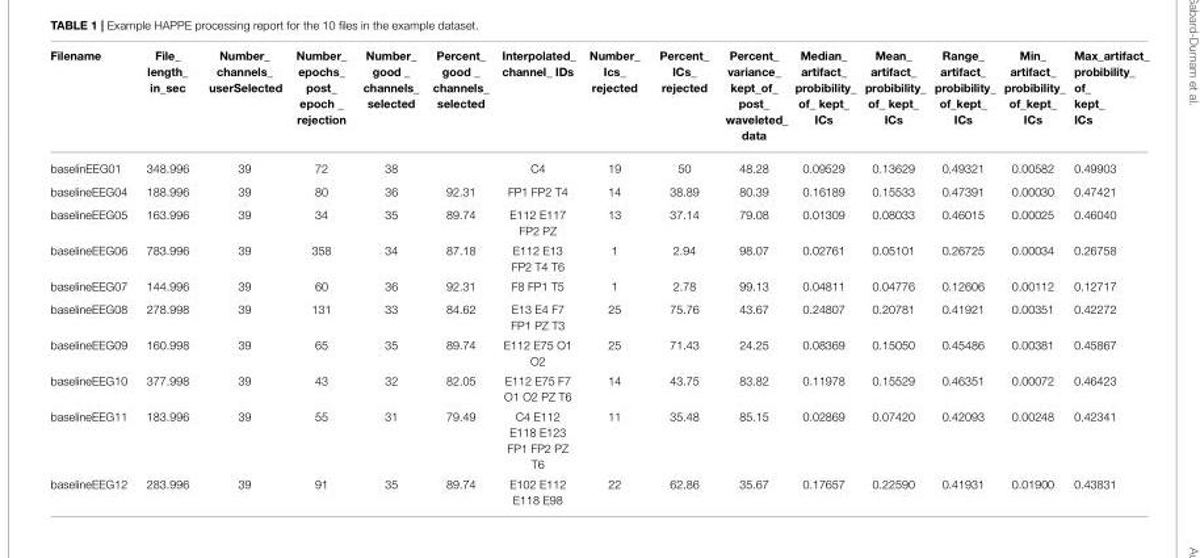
<table><thead><tr><td>Filename</td><td>File_ length_ in_sec</td><td>Number_ channels_ userSelected</td><td>Number_ epochs_ post_ epoch _ rejection</td><td>Number_ good _ channels_ selected</td><td>Percent_ good _ channels_ selected</td><td>Interpolated_ channel_ IDs</td><td>Number_ Ics_ rejected</td><td>Percent_ ICs_ rejected</td><td>Percent_ variance_ kept_of_ post_ waveleted_ data</td><td>Median_ artifact_ probibility_ of_ kept_ ICs</td><td>Mean_ artifact_ probibility_ of_ kept_ ICs</td><td>Range_ artifact_ probibility_ of_kept_ ICs</td><td>Min_ artifact_ probibility_ of_kept_ ICs</td><td>Max_artifact_ probibility_ of_ kept_ ICs</td></tr></thead><tbody><tr><td>baselinEEG01</td><td>348.996</td><td>39</td><td>72</td><td>38</td><td></td><td>C4</td><td>19</td><td>50</td><td>48.28</td><td>0.09529</td><td>0.13629</td><td>0.49321</td><td>0.00582</td><td>0.49903</td></tr><tr><td>baselineEEG04</td><td>188.996</td><td>39</td><td>80</td><td>36</td><td>92.31</td><td>FP1 FP2 T4</td><td>14</td><td>38.89</td><td>80.39</td><td>0.16189</td><td>0.15533</td><td>0.47391</td><td>0.00030</td><td>0.47421</td></tr><tr><td>baselineEEG05</td><td>163.996</td><td>39</td><td>34</td><td>35</td><td>89.74</td><td>E112 E117 FP2 PZ</td><td>13</td><td>37.14</td><td>79.08</td><td>0.01309</td><td>0.08033</td><td>0.46015</td><td>0.00025</td><td>0.46040</td></tr><tr><td>baselineEEG06</td><td>783.996</td><td>39</td><td>358</td><td>34</td><td>87.18</td><td>E112 E13 FP2 T4 T6</td><td>1</td><td>2.94</td><td>98.07</td><td>0.02761</td><td>0.05101</td><td>0.26725</td><td>0.00034</td><td>0.26758</td></tr><tr><td>baselineEEG07</td><td>144.996</td><td>39</td><td>60</td><td>36</td><td>92.31</td><td>F8 FP1 T5</td><td>1</td><td>2.78</td><td>99.13</td><td>0.04811</td><td>0.04776</td><td>0.12606</td><td>0.00112</td><td>0.12717</td></tr><tr><td>baselineEEG08</td><td>278.998</td><td>39</td><td>131</td><td>33</td><td>84.62</td><td>E13 E4 F7 FP1 PZ T3</td><td>25</td><td>75.76</td><td>43.67</td><td>0.24807</td><td>0.20781</td><td>0.41921</td><td>0.00351</td><td>0.42272</td></tr><tr><td>baselineEEG09</td><td>160.998</td><td>39</td><td>65</td><td>35</td><td>89.74</td><td>E112 E75 O1 O2</td><td>25</td><td>71.43</td><td>24.25</td><td>0.08369</td><td>0.15050</td><td>0.45486</td><td>0.00381</td><td>0.45867</td></tr><tr><td>baselineEEG10</td><td>377.998</td><td>39</td><td>43</td><td>32</td><td>82.05</td><td>E112 E75 F7 O1 O2 PZ T6</td><td>14</td><td>43.75</td><td>83.82</td><td>0.11978</td><td>0.15529</td><td>0.46351</td><td>0.00072</td><td>0.46423</td></tr><tr><td>baselineEEG11</td><td>183.996</td><td>39</td><td>55</td><td>31</td><td>79.49</td><td>C4 E112 E118 E123 FP1 FP2 PZ T6</td><td>11</td><td>35.48</td><td>85.15</td><td>0.02869</td><td>0.07420</td><td>0.42093</td><td>0.00248</td><td>0.42341</td></tr><tr><td>baselineEEG12</td><td>283.996</td><td>39</td><td>91</td><td>35</td><td>89.74</td><td>E102 E112 E118 E98</td><td>22</td><td>62.86</td><td>35.67</td><td>0.17657</td><td>0.22590</td><td>0.41931</td><td>0.01900</td><td>0.43831</td></tr></tbody></table>